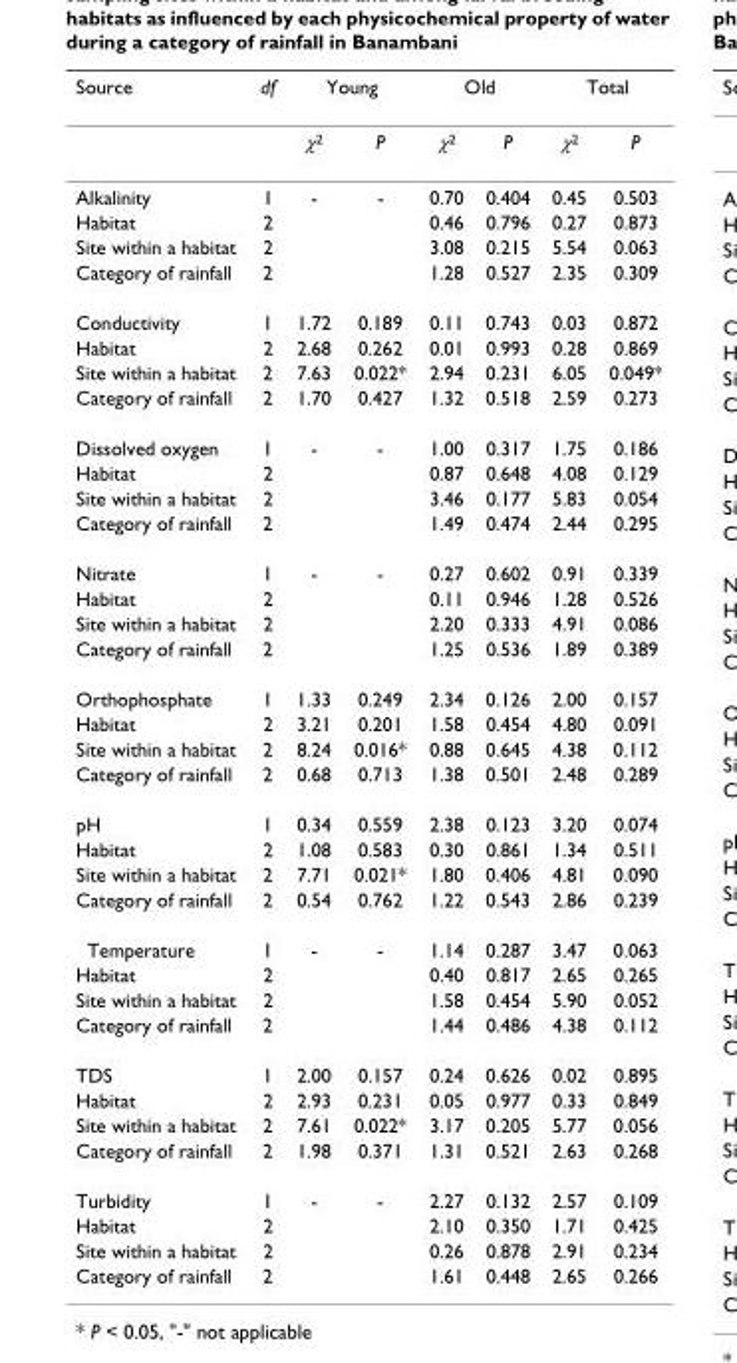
<table><thead><tr><td rowspan="2">Source</td><td rowspan="2">df</td><td colspan="2">Young</td><td colspan="2">Old</td><td colspan="2">Total</td></tr><tr><td>χ<sup>2</sup></td><td>P</td><td>χ<sup>2</sup></td><td>P</td><td>χ<sup>2</sup></td><td>P</td></tr></thead><tbody><tr><td>Alkalinity</td><td>1</td><td>-</td><td>-</td><td>0.70</td><td>0.404</td><td>0.45</td><td>0.503</td></tr><tr><td>Habitat</td><td>2</td><td></td><td></td><td>0.46</td><td>0.796</td><td>0.27</td><td>0.873</td></tr><tr><td>Site within a habitat</td><td>2</td><td></td><td></td><td>3.08</td><td>0.215</td><td>5.54</td><td>0.063</td></tr><tr><td>Category of rainfall</td><td>2</td><td></td><td></td><td>1.28</td><td>0.527</td><td>2.35</td><td>0.309</td></tr><tr><td>Conductivity</td><td>1</td><td>1.72</td><td>0.189</td><td>0.11</td><td>0.743</td><td>0.03</td><td>0.872</td></tr><tr><td>Habitat</td><td>2</td><td>2.68</td><td>0.262</td><td>0.01</td><td>0.993</td><td>0.28</td><td>0.869</td></tr><tr><td>Site within a habitat</td><td>2</td><td>7.63</td><td>0.022*</td><td>2.94</td><td>0.231</td><td>6.05</td><td>0.049*</td></tr><tr><td>Category of rainfall</td><td>2</td><td>1.70</td><td>0.427</td><td>1.32</td><td>0.518</td><td>2.59</td><td>0.273</td></tr><tr><td>Dissolved oxygen</td><td>1</td><td>-</td><td>-</td><td>1.00</td><td>0.317</td><td>1.75</td><td>0.186</td></tr><tr><td>Habitat</td><td>2</td><td></td><td></td><td>0.87</td><td>0.648</td><td>4.08</td><td>0.129</td></tr><tr><td>Site within a habitat</td><td>2</td><td></td><td></td><td>3.46</td><td>0.177</td><td>5.83</td><td>0.054</td></tr><tr><td>Category of rainfall</td><td>2</td><td></td><td></td><td>1.49</td><td>0.474</td><td>2.44</td><td>0.295</td></tr><tr><td>Nitrate</td><td>1</td><td>-</td><td>-</td><td>0.27</td><td>0.602</td><td>0.91</td><td>0.339</td></tr><tr><td>Habitat</td><td>2</td><td></td><td></td><td>0.11</td><td>0.946</td><td>1.28</td><td>0.526</td></tr><tr><td>Site within a habitat</td><td>2</td><td></td><td></td><td>2.20</td><td>0.333</td><td>4.91</td><td>0.086</td></tr><tr><td>Category of rainfall</td><td>2</td><td></td><td></td><td>1.25</td><td>0.536</td><td>1.89</td><td>0.389</td></tr><tr><td>Orthophosphate</td><td>1</td><td>1.33</td><td>0.249</td><td>2.34</td><td>0.126</td><td>2.00</td><td>0.157</td></tr><tr><td>Habitat</td><td>2</td><td>3.21</td><td>0.201</td><td>1.58</td><td>0.454</td><td>4.80</td><td>0.091</td></tr><tr><td>Site within a habitat</td><td>2</td><td>8.24</td><td>0.016*</td><td>0.88</td><td>0.645</td><td>4.38</td><td>0.112</td></tr><tr><td>Category of rainfall</td><td>2</td><td>0.68</td><td>0.713</td><td>1.38</td><td>0.501</td><td>2.48</td><td>0.289</td></tr><tr><td>pH</td><td>1</td><td>0.34</td><td>0.559</td><td>2.38</td><td>0.123</td><td>3.20</td><td>0.074</td></tr><tr><td>Habitat</td><td>2</td><td>1.08</td><td>0.583</td><td>0.30</td><td>0.861</td><td>1.34</td><td>0.511</td></tr><tr><td>Site within a habitat</td><td>2</td><td>7.71</td><td>0.021*</td><td>1.80</td><td>0.406</td><td>4.81</td><td>0.090</td></tr><tr><td>Category of rainfall</td><td>2</td><td>0.54</td><td>0.762</td><td>1.22</td><td>0.543</td><td>2.86</td><td>0.239</td></tr><tr><td>Temperature</td><td>1</td><td>-</td><td>-</td><td>1.14</td><td>0.287</td><td>3.47</td><td>0.063</td></tr><tr><td>Habitat</td><td>2</td><td></td><td></td><td>0.40</td><td>0.817</td><td>2.65</td><td>0.265</td></tr><tr><td>Site within a habitat</td><td>2</td><td></td><td></td><td>1.58</td><td>0.454</td><td>5.90</td><td>0.052</td></tr><tr><td>Category of rainfall</td><td>2</td><td></td><td></td><td>1.44</td><td>0.486</td><td>4.38</td><td>0.112</td></tr><tr><td>TDS</td><td>1</td><td>2.00</td><td>0.157</td><td>0.24</td><td>0.626</td><td>0.02</td><td>0.895</td></tr><tr><td>Habitat</td><td>2</td><td>2.93</td><td>0.231</td><td>0.05</td><td>0.977</td><td>0.33</td><td>0.849</td></tr><tr><td>Site within a habitat</td><td>2</td><td>7.61</td><td>0.022*</td><td>3.17</td><td>0.205</td><td>5.77</td><td>0.056</td></tr><tr><td>Category of rainfall</td><td>2</td><td>1.98</td><td>0.371</td><td>1.31</td><td>0.521</td><td>2.63</td><td>0.268</td></tr><tr><td>Turbidity</td><td>1</td><td>-</td><td>-</td><td>2.27</td><td>0.132</td><td>2.57</td><td>0.109</td></tr><tr><td>Habitat</td><td>2</td><td></td><td></td><td>2.10</td><td>0.350</td><td>1.71</td><td>0.425</td></tr><tr><td>Site within a habitat</td><td>2</td><td></td><td></td><td>0.26</td><td>0.878</td><td>2.91</td><td>0.234</td></tr><tr><td>Category of rainfall</td><td>2</td><td></td><td></td><td>1.61</td><td>0.448</td><td>2.65</td><td>0.266</td></tr></tbody></table>